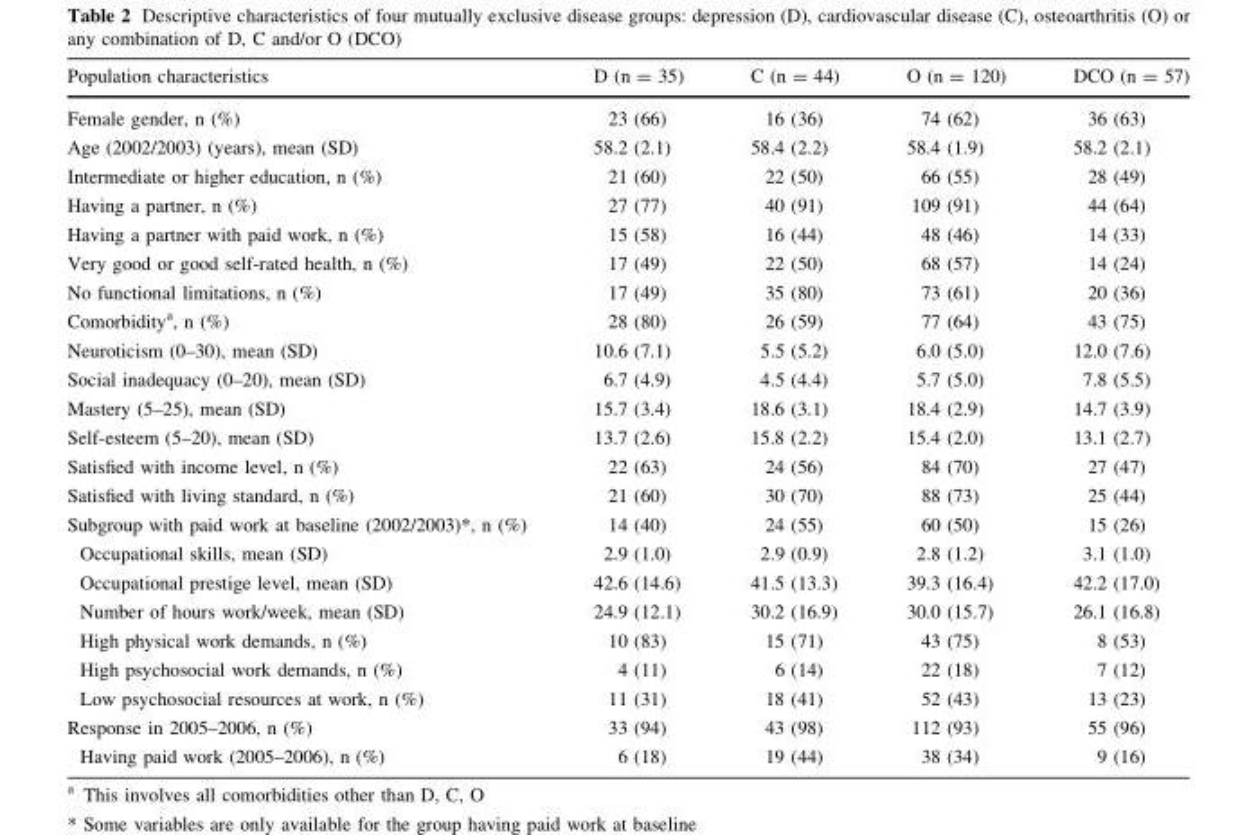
<table><thead><tr><td>Population characteristics</td><td>D (n = 35)</td><td>C (n = 44)</td><td>O (n = 120)</td><td>DCO (n = 57)</td></tr></thead><tbody><tr><td>Female gender, n (%)</td><td>23 (66)</td><td>16 (36)</td><td>74 (62)</td><td>36 (63)</td></tr><tr><td>Age (2002/2003) (years), mean (SD)</td><td>58.2 (2.1)</td><td>58.4 (2.2)</td><td>58.4 (1.9)</td><td>58.2 (2.1)</td></tr><tr><td>Intermediate or higher education, n (%)</td><td>21 (60)</td><td>22 (50)</td><td>66 (55)</td><td>28 (49)</td></tr><tr><td>Having a partner, n (%)</td><td>27 (77)</td><td>40 (91)</td><td>109 (91)</td><td>44 (64)</td></tr><tr><td>Having a partner with paid work, n (%)</td><td>15 (58)</td><td>16 (44)</td><td>48 (46)</td><td>14 (33)</td></tr><tr><td>Very good or good self-rated health, n (%)</td><td>17 (49)</td><td>22 (50)</td><td>68 (57)</td><td>14 (24)</td></tr><tr><td>No functional limitations, n (%)</td><td>17 (49)</td><td>35 (80)</td><td>73 (61)</td><td>20 (36)</td></tr><tr><td>Comorbidity<sup>a</sup>, n (%)</td><td>28 (80)</td><td>26 (59)</td><td>77 (64)</td><td>43 (75)</td></tr><tr><td>Neuroticism (0–30), mean (SD)</td><td>10.6 (7.1)</td><td>5.5 (5.2)</td><td>6.0 (5.0)</td><td>12.0 (7.6)</td></tr><tr><td>Social inadequacy (0–20), mean (SD)</td><td>6.7 (4.9)</td><td>4.5 (4.4)</td><td>5.7 (5.0)</td><td>7.8 (5.5)</td></tr><tr><td>Mastery (5–25), mean (SD)</td><td>15.7 (3.4)</td><td>18.6 (3.1)</td><td>18.4 (2.9)</td><td>14.7 (3.9)</td></tr><tr><td>Self-esteem (5–20), mean (SD)</td><td>13.7 (2.6)</td><td>15.8 (2.2)</td><td>15.4 (2.0)</td><td>13.1 (2.7)</td></tr><tr><td>Satisfied with income level, n (%)</td><td>22 (63)</td><td>24 (56)</td><td>84 (70)</td><td>27 (47)</td></tr><tr><td>Satisfied with living standard, n (%)</td><td>21 (60)</td><td>30 (70)</td><td>88 (73)</td><td>25 (44)</td></tr><tr><td>Subgroup with paid work at baseline (2002/2003)*, n (%)</td><td>14 (40)</td><td>24 (55)</td><td>60 (50)</td><td>15 (26)</td></tr><tr><td>Occupational skills, mean (SD)</td><td>2.9 (1.0)</td><td>2.9 (0.9)</td><td>2.8 (1.2)</td><td>3.1 (1.0)</td></tr><tr><td>Occupational prestige level, mean (SD)</td><td>42.6 (14.6)</td><td>41.5 (13.3)</td><td>39.3 (16.4)</td><td>42.2 (17.0)</td></tr><tr><td>Number of hours work/week, mean (SD)</td><td>24.9 (12.1)</td><td>30.2 (16.9)</td><td>30.0 (15.7)</td><td>26.1 (16.8)</td></tr><tr><td>High physical work demands, n (%)</td><td>10 (83)</td><td>15 (71)</td><td>43 (75)</td><td>8 (53)</td></tr><tr><td>High psychosocial work demands, n (%)</td><td>4 (11)</td><td>6 (14)</td><td>22 (18)</td><td>7 (12)</td></tr><tr><td>Low psychosocial resources at work, n (%)</td><td>11 (31)</td><td>18 (41)</td><td>52 (43)</td><td>13 (23)</td></tr><tr><td>Response in 2005–2006, n (%)</td><td>33 (94)</td><td>43 (98)</td><td>112 (93)</td><td>55 (96)</td></tr><tr><td>Having paid work (2005–2006), n (%)</td><td>6 (18)</td><td>19 (44)</td><td>38 (34)</td><td>9 (16)</td></tr></tbody></table>